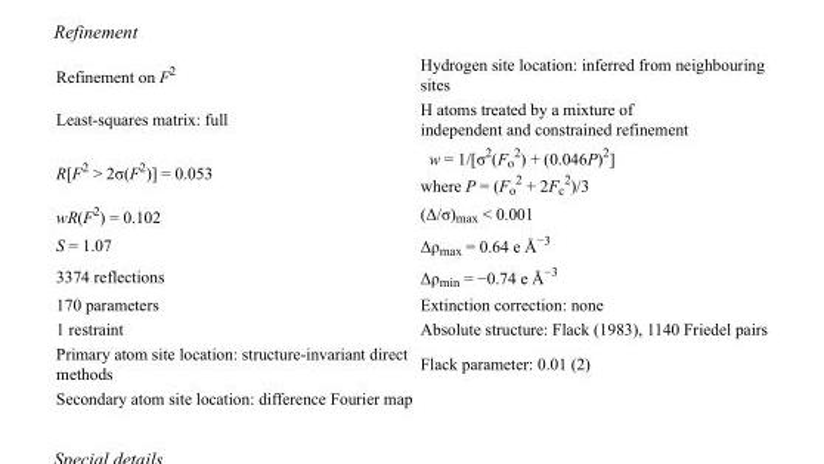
<table><tbody><tr><td>Refinement on F<sup>2</sup></td><td>Hydrogen site location: inferred from neighbouring sites</td></tr><tr><td>Least-squares matrix: full</td><td>H atoms treated by a mixture of independent and constrained refinement</td></tr><tr><td>R[F<sup>2</sup> &gt; 2σ(F<sup>2</sup>)] = 0.053</td><td>w = 1/[σ<sup>2</sup>(F<sub>o</sub> <sup>2</sup>) + (0.046P)<sup>2</sup>] where P = (F<sub>o</sub> <sup>2</sup> + 2F<sub>c</sub> <sup>2</sup>)/3</td></tr><tr><td>wR(F<sup>2</sup>) = 0.102</td><td>(Δ/σ)<sub>max</sub> &lt; 0.001</td></tr><tr><td>S = 1.07</td><td>Δρ<sub>max</sub> = 0.64 e Å<sup>−3</sup></td></tr><tr><td>3374 reflections</td><td>Δρ<sub>min</sub> = −0.74 e Å<sup>−3</sup></td></tr><tr><td>170 parameters</td><td>Extinction correction: none</td></tr><tr><td>1 restraint</td><td>Absolute structure: Flack (1983), 1140 Friedel pairs</td></tr><tr><td>Primary atom site location: structure-invariant direct methods</td><td>Flack parameter: 0.01 (2)</td></tr><tr><td>Secondary atom site location: difference Fourier map</td><td></td></tr></tbody></table>